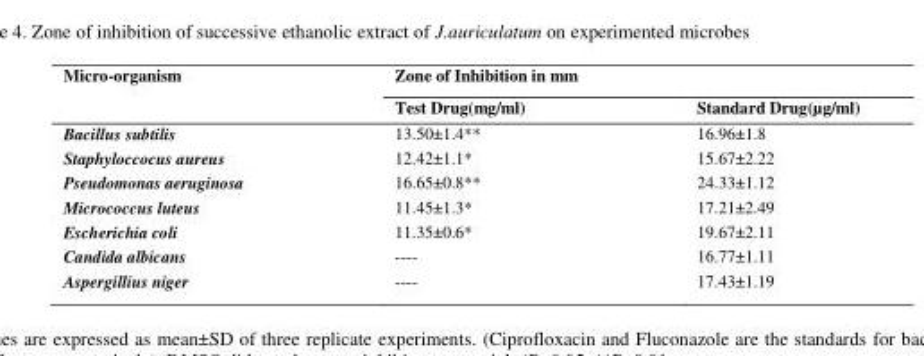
<table><thead><tr><td rowspan="2">Micro-organism</td><td colspan="2">Zone of Inhibition in mm</td></tr><tr><td>Test Drug(mg/ml)</td><td>Standard Drug(µg/ml)</td></tr></thead><tbody><tr><td>Bacillus subtilis</td><td>13.50±1.4**</td><td>16.96±1.8</td></tr><tr><td>Staphyloccocus aureus</td><td>12.42±1.1*</td><td>15.67±2.22</td></tr><tr><td>Pseudomonas aeruginosa</td><td>16.65±0.8**</td><td>24.33±1.12</td></tr><tr><td>Micrococcus luteus</td><td>11.45±1.3*</td><td>17.21±2.49</td></tr><tr><td>Escherichia coli</td><td>11.35±0.6*</td><td>19.67±2.11</td></tr><tr><td>Candida albicans</td><td>----</td><td>16.77±1.11</td></tr><tr><td>Aspergillius niger</td><td>----</td><td>17.43±1.19</td></tr></tbody></table>